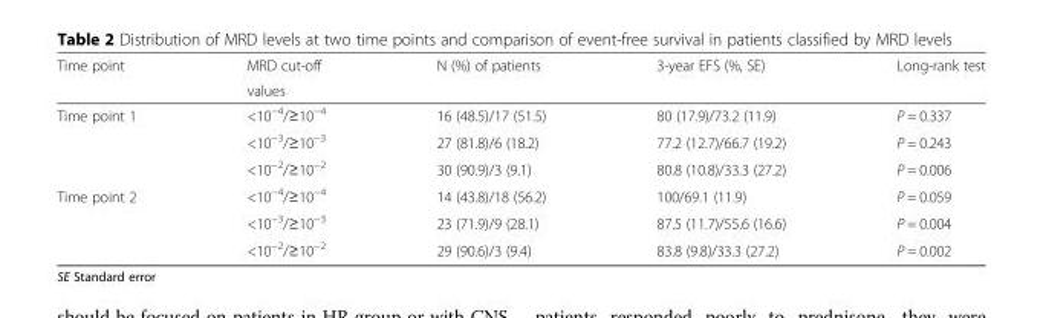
<table><thead><tr><td rowspan="2">Time point</td><td rowspan="2">MRD cut-off values</td><td rowspan="2">N (%) of patients</td><td rowspan="2">3-year EFS (%, SE)</td><td rowspan="2">Long-rank test</td></tr><tr></tr></thead><tbody><tr><td rowspan="3">Time point 1</td><td>&lt;10<sup>−4</sup>/≥10<sup>−4</sup></td><td>16 (48.5)/17 (51.5)</td><td>80 (17.9)/73.2 (11.9)</td><td>P = 0.337</td></tr><tr><td>&lt;10<sup>−3</sup>/≥10<sup>−3</sup></td><td>27 (81.8)/6 (18.2)</td><td>77.2 (12.7)/66.7 (19.2)</td><td>P = 0.243</td></tr><tr><td>&lt;10<sup>−2</sup>/≥10<sup>−2</sup></td><td>30 (90.9)/3 (9.1)</td><td>80.8 (10.8)/33.3 (27.2)</td><td>P = 0.006</td></tr><tr><td rowspan="3">Time point 2</td><td>&lt;10<sup>−4</sup>/≥10<sup>−4</sup></td><td>14 (43.8)/18 (56.2)</td><td>100/69.1 (11.9)</td><td>P = 0.059</td></tr><tr><td>&lt;10<sup>−3</sup>/≥10<sup>−3</sup></td><td>23 (71.9)/9 (28.1)</td><td>87.5 (11.7)/55.6 (16.6)</td><td>P = 0.004</td></tr><tr><td>&lt;10<sup>−2</sup>/≥10<sup>−2</sup></td><td>29 (90.6)/3 (9.4)</td><td>83.8 (9.8)/33.3 (27.2)</td><td>P = 0.002</td></tr></tbody></table>